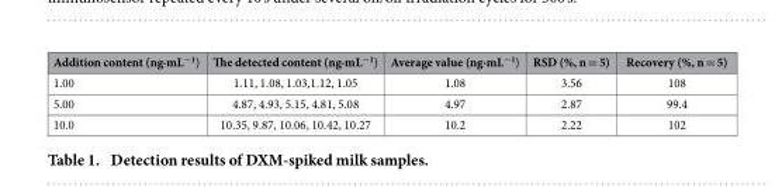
<table><thead><tr><td>Addition content (ng∙mL<sup>−1</sup>)</td><td>The detected content (ng∙mL<sup>−1</sup>)</td><td>Average value (ng∙mL<sup>−1</sup>)</td><td>RSD (%, n = 5)</td><td>Recovery (%, n = 5)</td></tr></thead><tbody><tr><td>1.00</td><td>1.11, 1.08, 1.03,1.12, 1.05</td><td>1.08</td><td>3.56</td><td>108</td></tr><tr><td>5.00</td><td>4.87, 4.93, 5.15, 4.81, 5.08</td><td>4.97</td><td>2.87</td><td>99.4</td></tr><tr><td>10.0</td><td>10.35, 9.87, 10.06, 10.42, 10.27</td><td>10.2</td><td>2.22</td><td>102</td></tr></tbody></table>